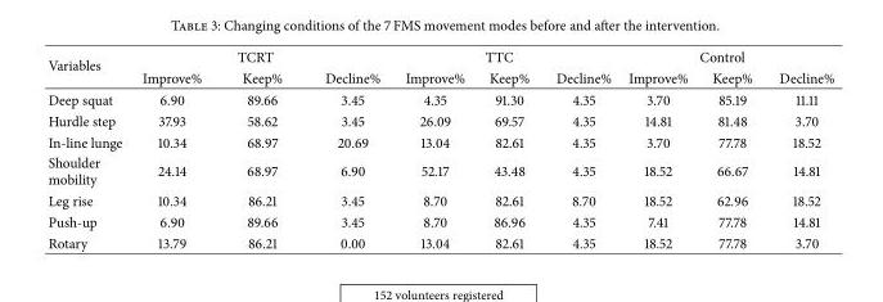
<table><thead><tr><td rowspan="2">Variables</td><td colspan="3">TCRT</td><td colspan="3">TTC</td><td colspan="3">Control</td></tr><tr><td>Improve%</td><td>Keep%</td><td>Decline%</td><td>Improve%</td><td>Keep%</td><td>Decline%</td><td>Improve%</td><td>Keep%</td><td>Decline%</td></tr></thead><tbody><tr><td>Deep squat</td><td>6.90</td><td>89.66</td><td>3.45</td><td>4.35</td><td>91.30</td><td>4.35</td><td>3.70</td><td>85.19</td><td>11.11</td></tr><tr><td>Hurdle step</td><td>37.93</td><td>58.62</td><td>3.45</td><td>26.09</td><td>69.57</td><td>4.35</td><td>14.81</td><td>81.48</td><td>3.70</td></tr><tr><td>In-line lunge</td><td>10.34</td><td>68.97</td><td>20.69</td><td>13.04</td><td>82.61</td><td>4.35</td><td>3.70</td><td>77.78</td><td>18.52</td></tr><tr><td>Shoulder mobility</td><td>24.14</td><td>68.97</td><td>6.90</td><td>52.17</td><td>43.48</td><td>4.35</td><td>18.52</td><td>66.67</td><td>14.81</td></tr><tr><td>Leg rise</td><td>10.34</td><td>86.21</td><td>3.45</td><td>8.70</td><td>82.61</td><td>8.70</td><td>18.52</td><td>62.96</td><td>18.52</td></tr><tr><td>Push-up</td><td>6.90</td><td>89.66</td><td>3.45</td><td>8.70</td><td>86.96</td><td>4.35</td><td>7.41</td><td>77.78</td><td>14.81</td></tr><tr><td>Rotary</td><td>13.79</td><td>86.21</td><td>0.00</td><td>13.04</td><td>82.61</td><td>4.35</td><td>18.52</td><td>77.78</td><td>3.70</td></tr></tbody></table>